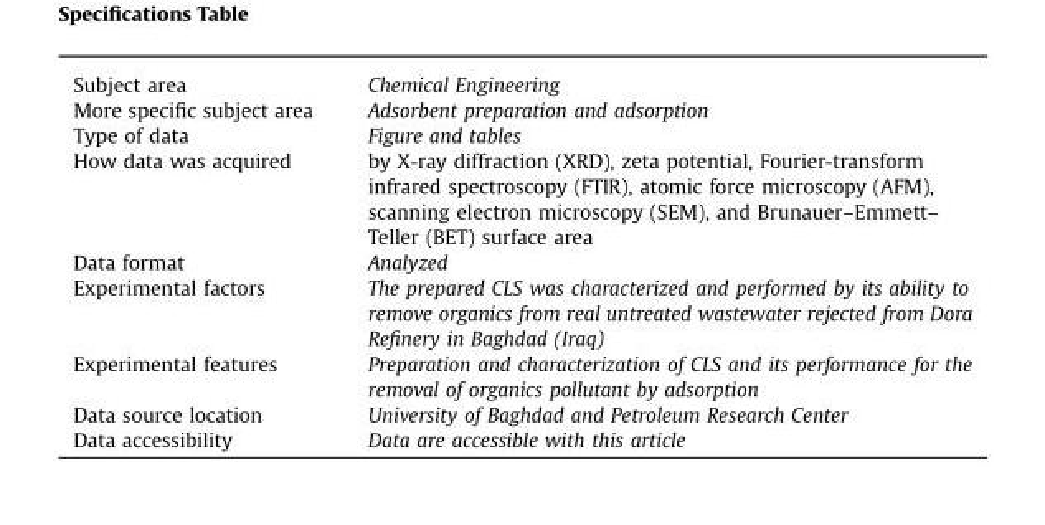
<table><tbody><tr><td>Subject area</td><td>Chemical Engineering</td></tr><tr><td>More specific subject area</td><td>Adsorbent preparation and adsorption</td></tr><tr><td>Type of data</td><td>Figure and tables</td></tr><tr><td>How data was acquired</td><td>by X-ray diffraction (XRD), zeta potential, Fourier-transform infrared spectroscopy (FTIR), atomic force microscopy (AFM), scanning electron microscopy (SEM), and Brunauer–Emmett– Teller (BET) surface area</td></tr><tr><td>Data format</td><td>Analyzed</td></tr><tr><td>Experimental factors</td><td>The prepared CLS was characterized and performed by its ability to remove organics from real untreated wastewater rejected from Dora Refinery in Baghdad (Iraq)</td></tr><tr><td>Experimental features</td><td>Preparation and characterization of CLS and its performance for the removal of organics pollutant by adsorption</td></tr><tr><td>Data source location</td><td>University of Baghdad and Petroleum Research Center</td></tr><tr><td>Data accessibility</td><td>Data are accessible with this article</td></tr></tbody></table>